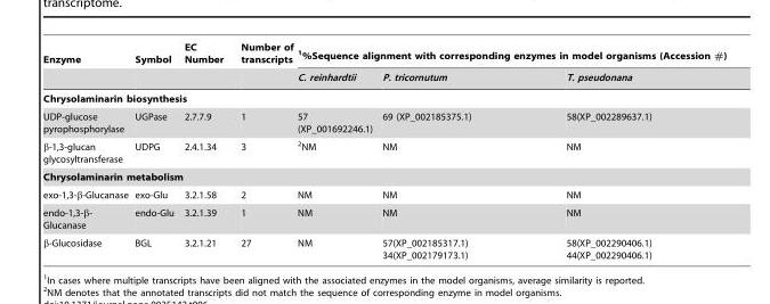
<table><thead><tr><td rowspan="2">Enzyme</td><td rowspan="2">Symbol</td><td rowspan="2">EC Number</td><td rowspan="2">Number of transcripts</td><td colspan="3">1%Sequence alignment with corresponding enzymes in model organisms (Accession #)</td></tr><tr><td>C. reinhardtii</td><td>P. tricornutum</td><td>T. pseudonana</td></tr></thead><tbody><tr><td colspan="7">Chrysolaminarin biosynthesis</td></tr><tr><td>UDP-glucose pyrophosphorylase</td><td>UGPase</td><td>2.7.7.9</td><td>1</td><td>57 (XP_001692246.1)</td><td>69 (XP_002185375.1)</td><td>58(XP_002289637.1)</td></tr><tr><td>β-1,3-glucan glycosyltransferase</td><td>UDPG</td><td>2.4.1.34</td><td>3</td><td>2NM</td><td>NM</td><td>NM</td></tr><tr><td colspan="7">Chrysolaminarin metabolism</td></tr><tr><td>exo-1,3-β-Glucanase</td><td>exo-Glu</td><td>3.2.1.58</td><td>2</td><td>NM</td><td>NM</td><td>NM</td></tr><tr><td>endo-1,3-β- Glucanase</td><td>endo-Glu</td><td>3.2.1.39</td><td>1</td><td>NM</td><td>NM</td><td>NM</td></tr><tr><td>β-Glucosidase</td><td>BGL</td><td>3.2.1.21</td><td>27</td><td>NM</td><td>57(XP_002185317.1) 34(XP_002179173.1)</td><td>58(XP_002290406.1) 44(XP_002290406.1)</td></tr></tbody></table>